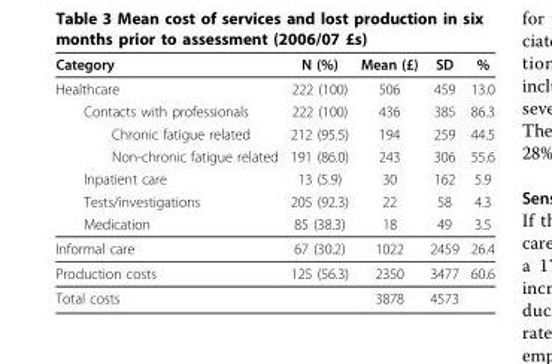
<table><thead><tr><td>Category</td><td>N (%)</td><td>Mean (£)</td><td>SD</td><td>%</td></tr></thead><tbody><tr><td>Healthcare</td><td>222 (100)</td><td>506</td><td>459</td><td>13.0</td></tr><tr><td>Contacts with professionals</td><td>222 (100)</td><td>436</td><td>385</td><td>86.3</td></tr><tr><td>Chronic fatigue related</td><td>212 (95.5)</td><td>194</td><td>259</td><td>44.5</td></tr><tr><td>Non-chronic fatigue related</td><td>191 (86.0)</td><td>243</td><td>306</td><td>55.6</td></tr><tr><td>Inpatient care</td><td>13 (5.9)</td><td>30</td><td>162</td><td>5.9</td></tr><tr><td>Tests/investigations</td><td>205 (92.3)</td><td>22</td><td>58</td><td>4.3</td></tr><tr><td>Medication</td><td>85 (38.3)</td><td>18</td><td>49</td><td>3.5</td></tr><tr><td>Informal care</td><td>67 (30.2)</td><td>1022</td><td>2459</td><td>26.4</td></tr><tr><td>Production costs</td><td>125 (56.3)</td><td>2350</td><td>3477</td><td>60.6</td></tr><tr><td>Total costs</td><td></td><td>3878</td><td>4573</td><td></td></tr></tbody></table>